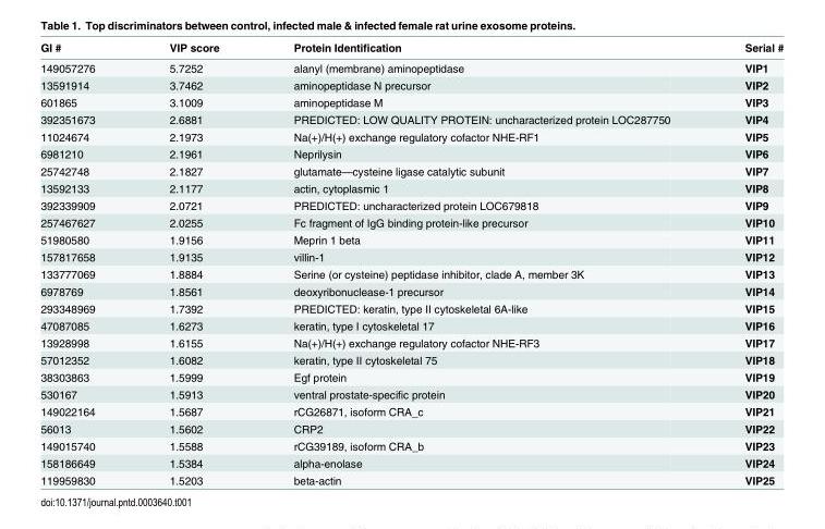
<table><thead><tr><td>GI #</td><td>VIP score</td><td>Protein Identification</td><td>Serial #</td></tr></thead><tbody><tr><td>149057276</td><td>5.7252</td><td>alanyl (membrane) aminopeptidase</td><td>VIP1</td></tr><tr><td>13591914</td><td>3.7462</td><td>aminopeptidase N precursor</td><td>VIP2</td></tr><tr><td>601865</td><td>3.1009</td><td>aminopeptidase M</td><td>VIP3</td></tr><tr><td>392351673</td><td>2.6881</td><td>PREDICTED: LOW QUALITY PROTEIN: uncharacterized protein LOC287750</td><td>VIP4</td></tr><tr><td>11024674</td><td>2.1973</td><td>Na(+)/H(+) exchange regulatory cofactor NHE-RF1</td><td>VIP5</td></tr><tr><td>6981210</td><td>2.1961</td><td>Neprilysin</td><td>VIP6</td></tr><tr><td>25742748</td><td>2.1827</td><td>glutamate—cysteine ligase catalytic subunit</td><td>VIP7</td></tr><tr><td>13592133</td><td>2.1177</td><td>actin, cytoplasmic 1</td><td>VIP8</td></tr><tr><td>392339909</td><td>2.0721</td><td>PREDICTED: uncharacterized protein LOC679818</td><td>VIP9</td></tr><tr><td>257467627</td><td>2.0255</td><td>Fc fragment of IgG binding protein-like precursor</td><td>VIP10</td></tr><tr><td>51980580</td><td>1.9156</td><td>Meprin 1 beta</td><td>VIP11</td></tr><tr><td>157817658</td><td>1.9135</td><td>villin-1</td><td>VIP12</td></tr><tr><td>133777069</td><td>1.8884</td><td>Serine (or cysteine) peptidase inhibitor, clade A, member 3K</td><td>VIP13</td></tr><tr><td>6978769</td><td>1.8561</td><td>deoxyribonuclease-1 precursor</td><td>VIP14</td></tr><tr><td>293348969</td><td>1.7392</td><td>PREDICTED: keratin, type II cytoskeletal 6A-like</td><td>VIP15</td></tr><tr><td>47087085</td><td>1.6273</td><td>keratin, type I cytoskeletal 17</td><td>VIP16</td></tr><tr><td>13928998</td><td>1.6155</td><td>Na(+)/H(+) exchange regulatory cofactor NHE-RF3</td><td>VIP17</td></tr><tr><td>57012352</td><td>1.6082</td><td>keratin, type II cytoskeletal 75</td><td>VIP18</td></tr><tr><td>38303863</td><td>1.5999</td><td>Egf protein</td><td>VIP19</td></tr><tr><td>530167</td><td>1.5913</td><td>ventral prostate-specific protein</td><td>VIP20</td></tr><tr><td>149022164</td><td>1.5687</td><td>rCG26871, isoform CRA_c</td><td>VIP21</td></tr><tr><td>56013</td><td>1.5602</td><td>CRP2</td><td>VIP22</td></tr><tr><td>149015740</td><td>1.5588</td><td>rCG39189, isoform CRA_b</td><td>VIP23</td></tr><tr><td>158186649</td><td>1.5384</td><td>alpha-enolase</td><td>VIP24</td></tr><tr><td>119959830</td><td>1.5203</td><td>beta-actin</td><td>VIP25</td></tr></tbody></table>